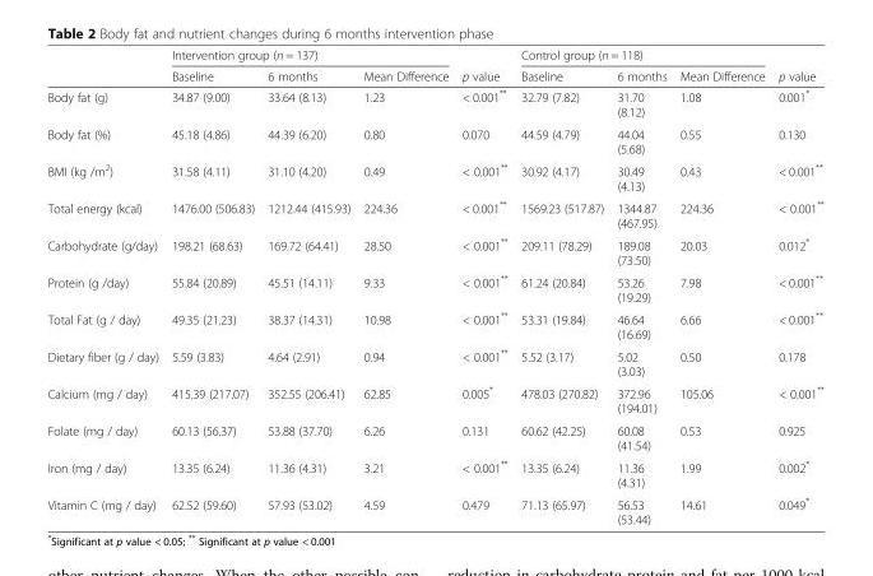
<table><thead><tr><td rowspan="2"></td><td colspan="3">Intervention group (n = 137)</td><td rowspan="2">p value</td><td colspan="3">Control group (n = 118)</td><td rowspan="2">p value</td></tr><tr><td>Baseline</td><td>6 months</td><td>Mean Difference</td><td>Baseline</td><td>6 months</td><td>Mean Difference</td></tr></thead><tbody><tr><td>Body fat (g)</td><td>34.87 (9.00)</td><td>33.64 (8.13)</td><td>1.23</td><td>&lt; 0.001**</td><td>32.79 (7.82)</td><td>31.70 (8.12)</td><td>1.08</td><td>0.001*</td></tr><tr><td>Body fat (%)</td><td>45.18 (4.86)</td><td>44.39 (6.20)</td><td>0.80</td><td>0.070</td><td>44.59 (4.79)</td><td>44.04 (5.68)</td><td>0.55</td><td>0.130</td></tr><tr><td>BMI (kg /m<sup>2</sup>)</td><td>31.58 (4.11)</td><td>31.10 (4.20)</td><td>0.49</td><td>&lt; 0.001**</td><td>30.92 (4.17)</td><td>30.49 (4.13)</td><td>0.43</td><td>&lt; 0.001**</td></tr><tr><td>Total energy (kcal)</td><td>1476.00 (506.83)</td><td>1212.44 (415.93)</td><td>224.36</td><td>&lt; 0.001**</td><td>1569.23 (517.87)</td><td>1344.87 (467.95)</td><td>224.36</td><td>&lt; 0.001**</td></tr><tr><td>Carbohydrate (g/day)</td><td>198.21 (68.63)</td><td>169.72 (64.41)</td><td>28.50</td><td>&lt; 0.001**</td><td>209.11 (78.29)</td><td>189.08 (73.50)</td><td>20.03</td><td>0.012*</td></tr><tr><td>Protein (g /day)</td><td>55.84 (20.89)</td><td>45.51 (14.11)</td><td>9.33</td><td>&lt; 0.001**</td><td>61.24 (20.84)</td><td>53.26 (19.29)</td><td>7.98</td><td>&lt; 0.001**</td></tr><tr><td>Total Fat (g / day)</td><td>49.35 (21.23)</td><td>38.37 (14.31)</td><td>10.98</td><td>&lt; 0.001**</td><td>53.31 (19.84)</td><td>46.64 (16.69)</td><td>6.66</td><td>&lt; 0.001**</td></tr><tr><td>Dietary fiber (g / day)</td><td>5.59 (3.83)</td><td>4.64 (2.91)</td><td>0.94</td><td>&lt; 0.001**</td><td>5.52 (3.17)</td><td>5.02 (3.03)</td><td>0.50</td><td>0.178</td></tr><tr><td>Calcium (mg / day)</td><td>415.39 (217.07)</td><td>352.55 (206.41)</td><td>62.85</td><td>0.005*</td><td>478.03 (270.82)</td><td>372.96 (194.01)</td><td>105.06</td><td>&lt; 0.001**</td></tr><tr><td>Folate (mg / day)</td><td>60.13 (56.37)</td><td>53.88 (37.70)</td><td>6.26</td><td>0.131</td><td>60.62 (42.25)</td><td>60.08 (41.54)</td><td>0.53</td><td>0.925</td></tr><tr><td>Iron (mg / day)</td><td>13.35 (6.24)</td><td>11.36 (4.31)</td><td>3.21</td><td>&lt; 0.001**</td><td>13.35 (6.24)</td><td>11.36 (4.31)</td><td>1.99</td><td>0.002*</td></tr><tr><td>Vitamin C (mg / day)</td><td>62.52 (59.60)</td><td>57.93 (53.02)</td><td>4.59</td><td>0.479</td><td>71.13 (65.97)</td><td>56.53 (53.44)</td><td>14.61</td><td>0.049*</td></tr></tbody></table>